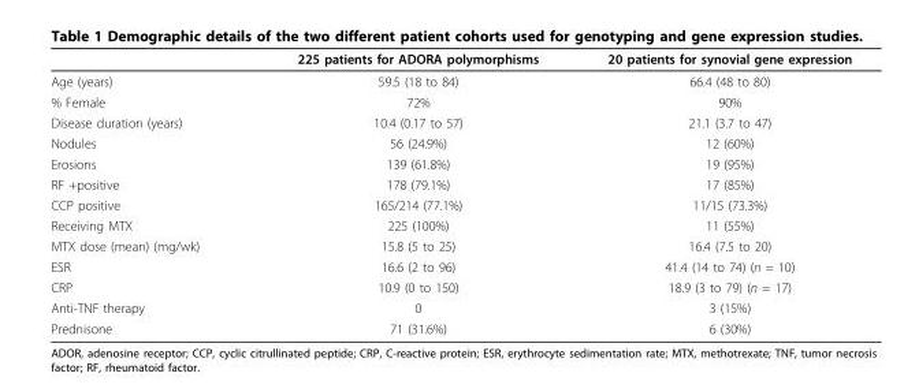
<table><thead><tr><td></td><td>225 patients for ADORA polymorphisms</td><td>20 patients for synovial gene expression</td></tr></thead><tbody><tr><td>Age (years)</td><td>59.5 (18 to 84)</td><td>66.4 (48 to 80)</td></tr><tr><td>% Female</td><td>72%</td><td>90%</td></tr><tr><td>Disease duration (years)</td><td>10.4 (0.17 to 57)</td><td>21.1 (3.7 to 47)</td></tr><tr><td>Nodules</td><td>56 (24.9%)</td><td>12 (60%)</td></tr><tr><td>Erosions</td><td>139 (61.8%)</td><td>19 (95%)</td></tr><tr><td>RF +positive</td><td>178 (79.1%)</td><td>17 (85%)</td></tr><tr><td>CCP positive</td><td>165/214 (77.1%)</td><td>11/15 (73.3%)</td></tr><tr><td>Receiving MTX</td><td>225 (100%)</td><td>11 (55%)</td></tr><tr><td>MTX dose (mean) (mg/wk)</td><td>15.8 (5 to 25)</td><td>16.4 (7.5 to 20)</td></tr><tr><td>ESR</td><td>16.6 (2 to 96)</td><td>41.4 (14 to 74) (n = 10)</td></tr><tr><td>CRP</td><td>10.9 (0 to 150)</td><td>18.9 (3 to 79) (n = 17)</td></tr><tr><td>Anti-TNF therapy</td><td>0</td><td>3 (15%)</td></tr><tr><td>Prednisone</td><td>71 (31.6%)</td><td>6 (30%)</td></tr></tbody></table>